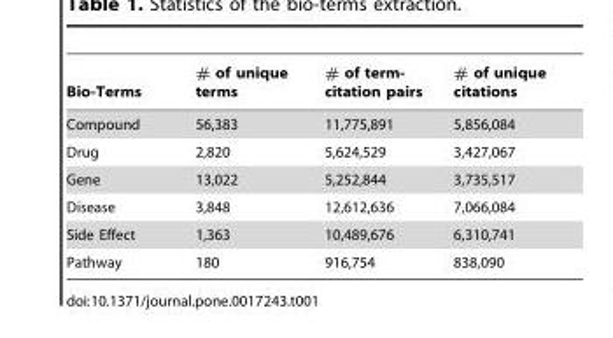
<table><thead><tr><td>Bio-Terms</td><td># of unique terms</td><td># of term- citation pairs</td><td># of unique citations</td></tr></thead><tbody><tr><td>Compound</td><td>56,383</td><td>11,775,891</td><td>5,856,084</td></tr><tr><td>Drug</td><td>2,820</td><td>5,624,529</td><td>3,427,067</td></tr><tr><td>Gene</td><td>13,022</td><td>5,252,844</td><td>3,735,517</td></tr><tr><td>Disease</td><td>3,848</td><td>12,612,636</td><td>7,066,084</td></tr><tr><td>Side Effect</td><td>1,363</td><td>10,489,676</td><td>6,310,741</td></tr><tr><td>Pathway</td><td>180</td><td>916,754</td><td>838,090</td></tr></tbody></table>